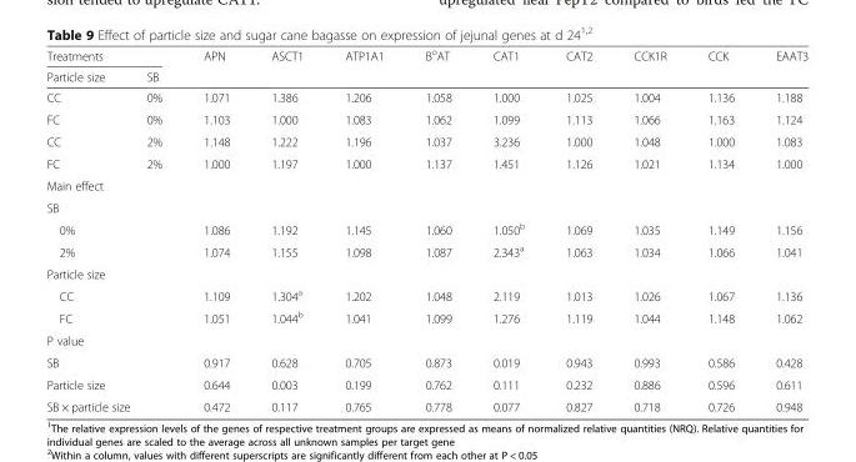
<table><thead><tr><td colspan="2">Treatments</td><td rowspan="2">APN</td><td rowspan="2">ASCT1</td><td rowspan="2">ATP1A1</td><td rowspan="2">B<sup>o</sup>AT</td><td rowspan="2">CAT1</td><td rowspan="2">CAT2</td><td rowspan="2">CCK1R</td><td rowspan="2">CCK</td><td rowspan="2">EAAT3</td></tr><tr><td>Particle size</td><td>SB</td></tr></thead><tbody><tr><td>CC</td><td>0%</td><td>1.071</td><td>1.386</td><td>1.206</td><td>1.058</td><td>1.000</td><td>1.025</td><td>1.004</td><td>1.136</td><td>1.188</td></tr><tr><td>FC</td><td>0%</td><td>1.103</td><td>1.000</td><td>1.083</td><td>1.062</td><td>1.099</td><td>1.113</td><td>1.066</td><td>1.163</td><td>1.124</td></tr><tr><td>CC</td><td>2%</td><td>1.148</td><td>1.222</td><td>1.196</td><td>1.037</td><td>3.236</td><td>1.000</td><td>1.048</td><td>1.000</td><td>1.083</td></tr><tr><td>FC</td><td>2%</td><td>1.000</td><td>1.197</td><td>1.000</td><td>1.137</td><td>1.451</td><td>1.126</td><td>1.021</td><td>1.134</td><td>1.000</td></tr><tr><td colspan="11">Main effect</td></tr><tr><td colspan="11">SB</td></tr><tr><td colspan="2">0%</td><td>1.086</td><td>1.192</td><td>1.145</td><td>1.060</td><td>1.050<sup>b</sup></td><td>1.069</td><td>1.035</td><td>1.149</td><td>1.156</td></tr><tr><td colspan="2">2%</td><td>1.074</td><td>1.155</td><td>1.098</td><td>1.087</td><td>2.343<sup>a</sup></td><td>1.063</td><td>1.034</td><td>1.066</td><td>1.041</td></tr><tr><td colspan="11">Particle size</td></tr><tr><td colspan="2">CC</td><td>1.109</td><td>1.304<sup>a</sup></td><td>1.202</td><td>1.048</td><td>2.119</td><td>1.013</td><td>1.026</td><td>1.067</td><td>1.136</td></tr><tr><td colspan="2">FC</td><td>1.051</td><td>1.044<sup>b</sup></td><td>1.041</td><td>1.099</td><td>1.276</td><td>1.119</td><td>1.044</td><td>1.148</td><td>1.062</td></tr><tr><td colspan="11">P value</td></tr><tr><td colspan="2">SB</td><td>0.917</td><td>0.628</td><td>0.705</td><td>0.873</td><td>0.019</td><td>0.943</td><td>0.993</td><td>0.586</td><td>0.428</td></tr><tr><td colspan="2">Particle size</td><td>0.644</td><td>0.003</td><td>0.199</td><td>0.762</td><td>0.111</td><td>0.232</td><td>0.886</td><td>0.596</td><td>0.611</td></tr><tr><td colspan="2">SB × particle size</td><td>0.472</td><td>0.117</td><td>0.765</td><td>0.778</td><td>0.077</td><td>0.827</td><td>0.718</td><td>0.726</td><td>0.948</td></tr></tbody></table>